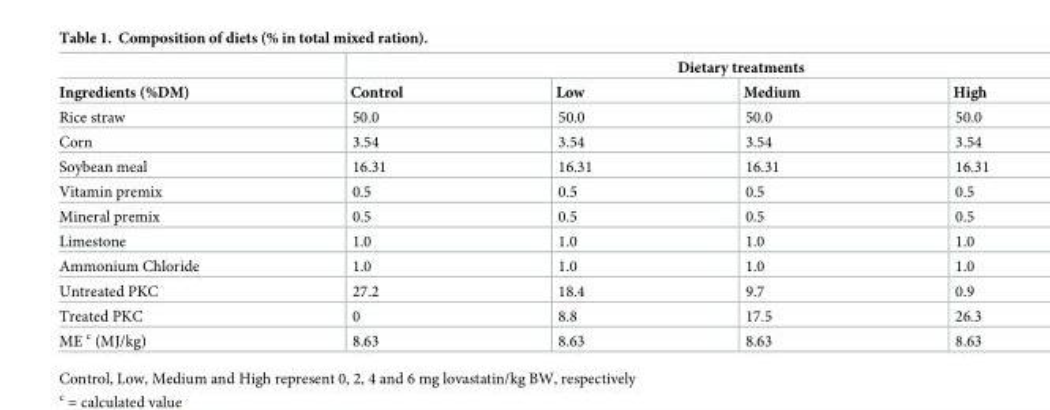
<table><thead><tr><td rowspan="2">Ingredients (%DM)</td><td colspan="4">Dietary treatments</td></tr><tr><td>Control</td><td>Low</td><td>Medium</td><td>High</td></tr></thead><tbody><tr><td>Rice straw</td><td>50.0</td><td>50.0</td><td>50.0</td><td>50.0</td></tr><tr><td>Corn</td><td>3.54</td><td>3.54</td><td>3.54</td><td>3.54</td></tr><tr><td>Soybean meal</td><td>16.31</td><td>16.31</td><td>16.31</td><td>16.31</td></tr><tr><td>Vitamin premix</td><td>0.5</td><td>0.5</td><td>0.5</td><td>0.5</td></tr><tr><td>Mineral premix</td><td>0.5</td><td>0.5</td><td>0.5</td><td>0.5</td></tr><tr><td>Limestone</td><td>1.0</td><td>1.0</td><td>1.0</td><td>1.0</td></tr><tr><td>Ammonium Chloride</td><td>1.0</td><td>1.0</td><td>1.0</td><td>1.0</td></tr><tr><td>Untreated PKC</td><td>27.2</td><td>18.4</td><td>9.7</td><td>0.9</td></tr><tr><td>Treated PKC</td><td>0</td><td>8.8</td><td>17.5</td><td>26.3</td></tr><tr><td>ME <sup>c</sup> (MJ/kg)</td><td>8.63</td><td>8.63</td><td>8.63</td><td>8.63</td></tr></tbody></table>